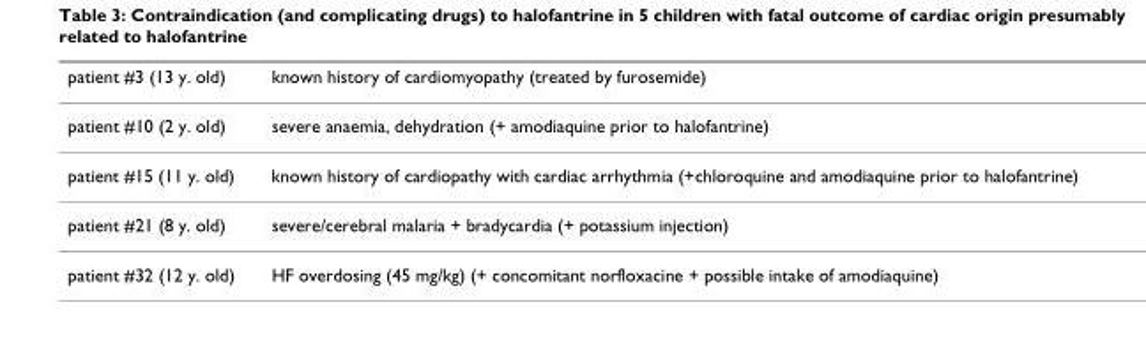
<table><thead><tr><td>patient #3 (13 y. old)</td><td>known history of cardiomyopathy (treated by furosemide)</td></tr></thead><tbody><tr><td>patient #10 (2 y. old)</td><td>severe anaemia, dehydration (+ amodiaquine prior to halofantrine)</td></tr><tr><td>patient #15 (11 y. old)</td><td>known history of cardiopathy with cardiac arrhythmia (+chloroquine and amodiaquine prior to halofantrine)</td></tr><tr><td>patient #21 (8 y. old)</td><td>severe/cerebral malaria + bradycardia (+ potassium injection)</td></tr><tr><td>patient #32 (12 y. old)</td><td>HF overdosing (45 mg/kg) (+ concomitant norfloxacine + possible intake of amodiaquine)</td></tr></tbody></table>